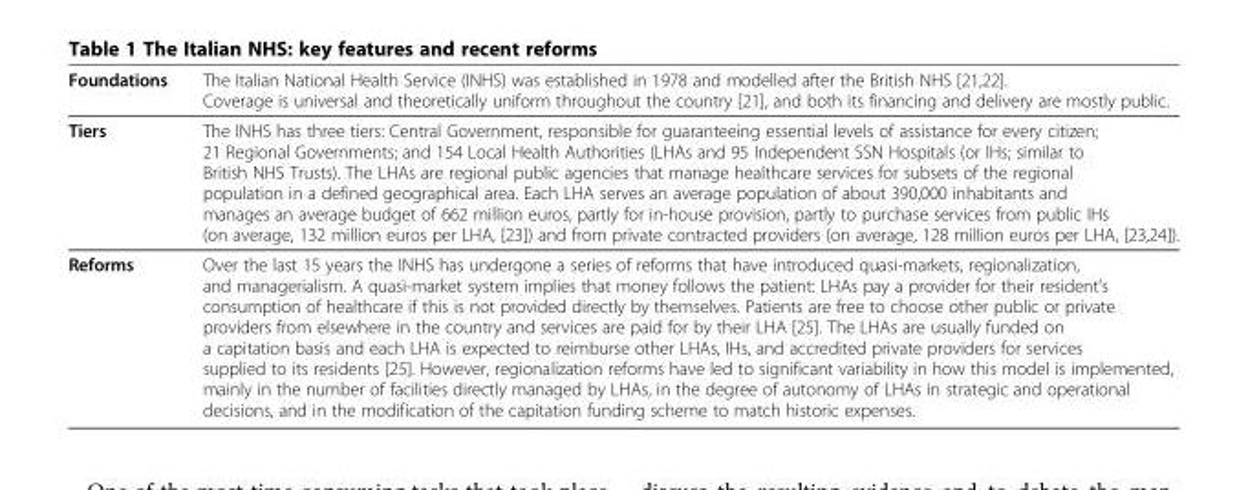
<table><tbody><tr><td>Foundations</td><td>The Italian National Health Service (INHS) was established in 1978 and modelled after the British NHS [21,22]. Coverage is universal and theoretically uniform throughout the country [21], and both its financing and delivery are mostly public.</td></tr><tr><td>Tiers</td><td>The INHS has three tiers: Central Government, responsible for guaranteeing essential levels of assistance for every citizen; 21 Regional Governments; and 154 Local Health Authorities (LHAs and 95 Independent SSN Hospitals (or IHs; similar to British NHS Trusts). The LHAs are regional public agencies that manage healthcare services for subsets of the regional population in a defined geographical area. Each LHA serves an average population of about 390,000 inhabitants and manages an average budget of 662 million euros, partly for in-house provision, partly to purchase services from public IHs (on average, 132 million euros per LHA, [23]) and from private contracted providers (on average, 128 million euros per LHA, [23,24]).</td></tr><tr><td>Reforms</td><td>Over the last 15 years the INHS has undergone a series of reforms that have introduced quasi-markets, regionalization, and managerialism. A quasi-market system implies that money follows the patient: LHAs pay a provider for their resident’s consumption of healthcare if this is not provided directly by themselves. Patients are free to choose other public or private providers from elsewhere in the country and services are paid for by their LHA [25]. The LHAs are usually funded on a capitation basis and each LHA is expected to reimburse other LHAs, IHs, and accredited private providers for services supplied to its residents [25]. However, regionalization reforms have led to significant variability in how this model is implemented, mainly in the number of facilities directly managed by LHAs, in the degree of autonomy of LHAs in strategic and operational decisions, and in the modification of the capitation funding scheme to match historic expenses.</td></tr></tbody></table>